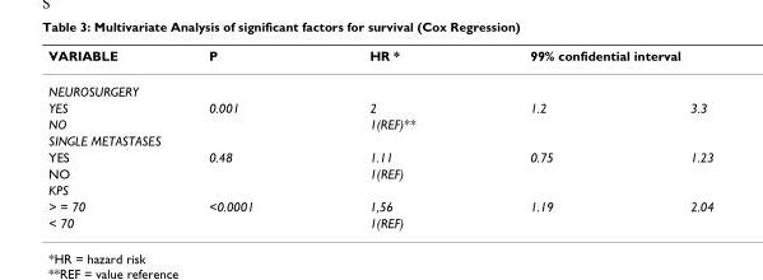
<table><thead><tr><td rowspan="2">VARIABLE NEUROSURGERY</td><td rowspan="2">P</td><td rowspan="2">HR *</td><td colspan="2">99% confidential interval</td></tr><tr><td></td><td></td></tr></thead><tbody><tr><td>YES</td><td>0.001</td><td>2</td><td>1.2</td><td>3.3</td></tr><tr><td>NO</td><td></td><td>1(REF)**</td><td></td><td></td></tr><tr><td colspan="5">SINGLE METASTASES</td></tr><tr><td>YES</td><td>0.48</td><td>1.11</td><td>0.75</td><td>1.23</td></tr><tr><td>NO</td><td></td><td>1(REF)</td><td></td><td></td></tr><tr><td colspan="5">KPS</td></tr><tr><td>&gt; = 70</td><td>&lt;0.0001</td><td>1,56</td><td>1.19</td><td>2.04</td></tr><tr><td>&lt; 70</td><td></td><td>1(REF)</td><td></td><td></td></tr></tbody></table>